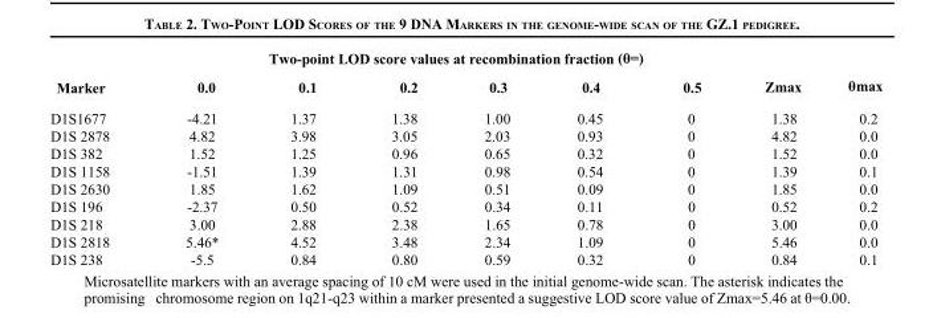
<table><thead><tr><td rowspan="2">Marker</td><td colspan="6">Two-point LOD score values at recombination fraction (θ=)</td><td rowspan="2">Zmax</td><td rowspan="2">θmax</td></tr><tr><td>0.0</td><td>0.1</td><td>0.2</td><td>0.3</td><td>0.4</td><td>0.5</td></tr></thead><tbody><tr><td>D1S1677</td><td>-4.21</td><td>1.37</td><td>1.38</td><td>1.00</td><td>0.45</td><td>0</td><td>1.38</td><td>0.2</td></tr><tr><td>D1S 2878</td><td>4.82</td><td>3.98</td><td>3.05</td><td>2.03</td><td>0.93</td><td>0</td><td>4.82</td><td>0.0</td></tr><tr><td>D1S 382</td><td>1.52</td><td>1.25</td><td>0.96</td><td>0.65</td><td>0.32</td><td>0</td><td>1.52</td><td>0.0</td></tr><tr><td>D1S 1158</td><td>-1.51</td><td>1.39</td><td>1.31</td><td>0.98</td><td>0.54</td><td>0</td><td>1.39</td><td>0.1</td></tr><tr><td>D1S 2630</td><td>1.85</td><td>1.62</td><td>1.09</td><td>0.51</td><td>0.09</td><td>0</td><td>1.85</td><td>0.0</td></tr><tr><td>D1S 196</td><td>-2.37</td><td>0.50</td><td>0.52</td><td>0.34</td><td>0.11</td><td>0</td><td>0.52</td><td>0.2</td></tr><tr><td>D1S 218</td><td>3.00</td><td>2.88</td><td>2.38</td><td>1.65</td><td>0.78</td><td>0</td><td>3.00</td><td>0.0</td></tr><tr><td>D1S 2818</td><td>5.46*</td><td>4.52</td><td>3.48</td><td>2.34</td><td>1.09</td><td>0</td><td>5.46</td><td>0.0</td></tr><tr><td>D1S 238</td><td>-5.5</td><td>0.84</td><td>0.80</td><td>0.59</td><td>0.32</td><td>0</td><td>0.84</td><td>0.1</td></tr></tbody></table>